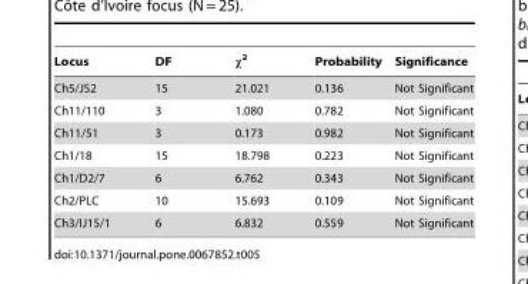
<table><thead><tr><td>Locus</td><td>DF</td><td>x2</td><td>Probability</td><td>Significance</td></tr></thead><tbody><tr><td>Ch5/JS2</td><td>15</td><td>21.021</td><td>0.136</td><td>Not Significant</td></tr><tr><td>Ch11/110</td><td>3</td><td>1.080</td><td>0.782</td><td>Not Significant</td></tr><tr><td>Ch11/51</td><td>3</td><td>0.173</td><td>0.982</td><td>Not Significant</td></tr><tr><td>Ch1/18</td><td>15</td><td>18.798</td><td>0.223</td><td>Not Significant</td></tr><tr><td>Ch1/D2/7</td><td>6</td><td>6.762</td><td>0.343</td><td>Not Significant</td></tr><tr><td>Ch2/PLC</td><td>10</td><td>15.693</td><td>0.109</td><td>Not Significant</td></tr><tr><td>Ch3/IJ15/1</td><td>6</td><td>6.832</td><td>0.559</td><td>Not Significant</td></tr></tbody></table>